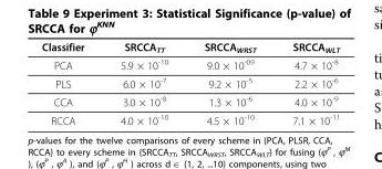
<table><thead><tr><td>Classifier</td><td>SRCCATT</td><td>SRCCAWRST</td><td>SRCCAWLT</td></tr></thead><tbody><tr><td>PCA</td><td>5.9 × 10-10</td><td>9.0 × 10-09</td><td>4.7 × 10-8</td></tr><tr><td>PLS</td><td>6.0 × 10-7</td><td>9.2 × 10-5</td><td>2.2 × 10-6</td></tr><tr><td>CCA</td><td>3.0 × 10-8</td><td>1.3 × 10-6</td><td>4.0 × 10-9</td></tr><tr><td>RCCA</td><td>4.0 × 10-10</td><td>4.5 × 10-10</td><td>7.1 × 10-11</td></tr></tbody></table>